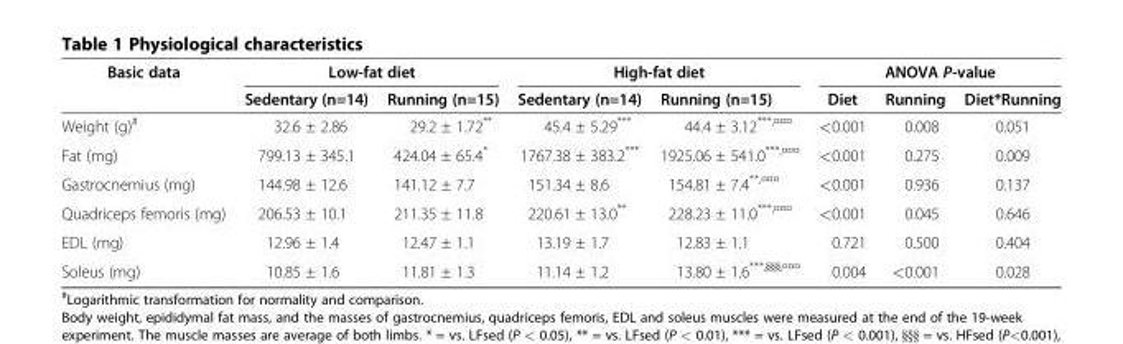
<table><thead><tr><td rowspan="2">Basic data</td><td colspan="2">Low-fat diet</td><td colspan="2">High-fat diet</td><td colspan="3">ANOVA P-value</td></tr><tr><td>Sedentary (n=14)</td><td>Running (n=15)</td><td>Sedentary (n=14)</td><td>Running (n=15)</td><td>Diet</td><td>Running</td><td>Diet*Running</td></tr></thead><tbody><tr><td>Weight (g)<sup>#</sup></td><td>32.6 ± 2.86</td><td>29.2 ± 1.72**</td><td>45.4 ± 5.29***</td><td>44.4 ± 3.12<sup>***,¤¤¤</sup></td><td>&lt;0.001</td><td>0.008</td><td>0.051</td></tr><tr><td>Fat (mg)</td><td>799.13 ± 345.1</td><td>424.04 ± 65.4*</td><td>1767.38 ± 383.2***</td><td>1925.06 ± 541.0<sup>***,¤¤¤</sup></td><td>&lt;0.001</td><td>0.275</td><td>0.009</td></tr><tr><td>Gastrocnemius (mg)</td><td>144.98 ± 12.6</td><td>141.12 ± 7.7</td><td>151.34 ± 8.6</td><td>154.81 ± 7.4<sup>**,¤¤¤</sup></td><td>&lt;0.001</td><td>0.936</td><td>0.137</td></tr><tr><td>Quadriceps femoris (mg)</td><td>206.53 ± 10.1</td><td>211.35 ± 11.8</td><td>220.61 ± 13.0**</td><td>228.23 ± 11.0<sup>***,¤¤¤</sup></td><td>&lt;0.001</td><td>0.045</td><td>0.646</td></tr><tr><td>EDL (mg)</td><td>12.96 ± 1.4</td><td>12.47 ± 1.1</td><td>13.19 ± 1.7</td><td>12.83 ± 1.1</td><td>0.721</td><td>0.500</td><td>0.404</td></tr><tr><td>Soleus (mg)</td><td>10.85 ± 1.6</td><td>11.81 ± 1.3</td><td>11.14 ± 1.2</td><td>13.80 ± 1.6<sup>***,§§§,¤¤¤</sup></td><td>0.004</td><td>&lt;0.001</td><td>0.028</td></tr></tbody></table>